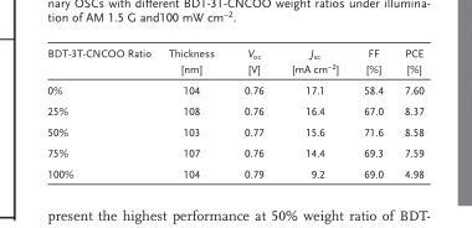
<table><thead><tr><td>BDT-3T-CNCOO Ratio</td><td>Thickness [nm]</td><td>V <sub>oc</sub> [V]</td><td>J <sub>sc</sub> [mA cm <sup>−2</sup> ]</td><td>FF [%]</td><td>PCE [%]</td></tr></thead><tbody><tr><td>0%</td><td>104</td><td>0.76</td><td>17.1</td><td>58.4</td><td>7.60</td></tr><tr><td>25%</td><td>108</td><td>0.76</td><td>16.4</td><td>67.0</td><td>8.37</td></tr><tr><td>50%</td><td>103</td><td>0.77</td><td>15.6</td><td>71.6</td><td>8.58</td></tr><tr><td>75%</td><td>107</td><td>0.76</td><td>14.4</td><td>69.3</td><td>7.59</td></tr><tr><td>100%</td><td>104</td><td>0.79</td><td>9.2</td><td>69.0</td><td>4.98</td></tr></tbody></table>